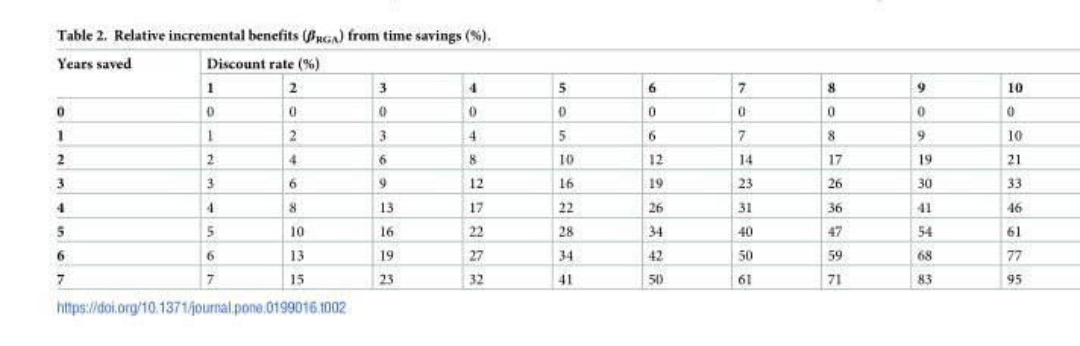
<table><tbody><tr><td rowspan="2">Years saved</td><td colspan="10">Discount rate (%)</td></tr><tr><td>1</td><td>2</td><td>3</td><td>4</td><td>5</td><td>6</td><td>7</td><td>8</td><td>9</td><td>10</td></tr><tr><td>0</td><td>0</td><td>0</td><td>0</td><td>0</td><td>0</td><td>0</td><td>0</td><td>0</td><td>0</td><td>0</td></tr><tr><td>1</td><td>1</td><td>2</td><td>3</td><td>4</td><td>5</td><td>6</td><td>7</td><td>8</td><td>9</td><td>10</td></tr><tr><td>2</td><td>2</td><td>4</td><td>6</td><td>8</td><td>10</td><td>12</td><td>14</td><td>17</td><td>19</td><td>21</td></tr><tr><td>3</td><td>3</td><td>6</td><td>9</td><td>12</td><td>16</td><td>19</td><td>23</td><td>26</td><td>30</td><td>33</td></tr><tr><td>4</td><td>4</td><td>8</td><td>13</td><td>17</td><td>22</td><td>26</td><td>31</td><td>36</td><td>41</td><td>46</td></tr><tr><td>5</td><td>5</td><td>10</td><td>16</td><td>22</td><td>28</td><td>34</td><td>40</td><td>47</td><td>54</td><td>61</td></tr><tr><td>6</td><td>6</td><td>13</td><td>19</td><td>27</td><td>34</td><td>42</td><td>50</td><td>59</td><td>68</td><td>77</td></tr><tr><td>7</td><td>7</td><td>15</td><td>23</td><td>32</td><td>41</td><td>50</td><td>61</td><td>71</td><td>83</td><td>95</td></tr></tbody></table>